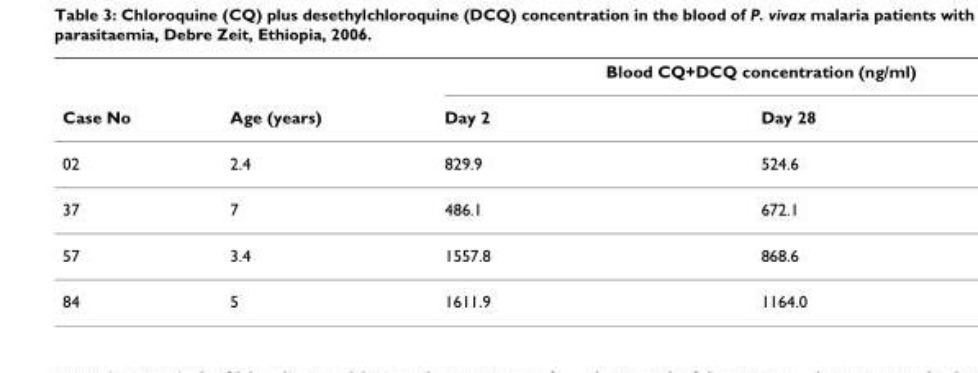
<table><thead><tr><td rowspan="2">Case No</td><td rowspan="2">Age (years)</td><td colspan="2">Blood CQ+DCQ concentration (ng/ml)</td></tr><tr><td>Day 2</td><td>Day 28</td></tr></thead><tbody><tr><td>02</td><td>2.4</td><td>829.9</td><td>524.6</td></tr><tr><td>37</td><td>7</td><td>486.1</td><td>672.1</td></tr><tr><td>57</td><td>3.4</td><td>1557.8</td><td>868.6</td></tr><tr><td>84</td><td>5</td><td>1611.9</td><td>1164.0</td></tr></tbody></table>